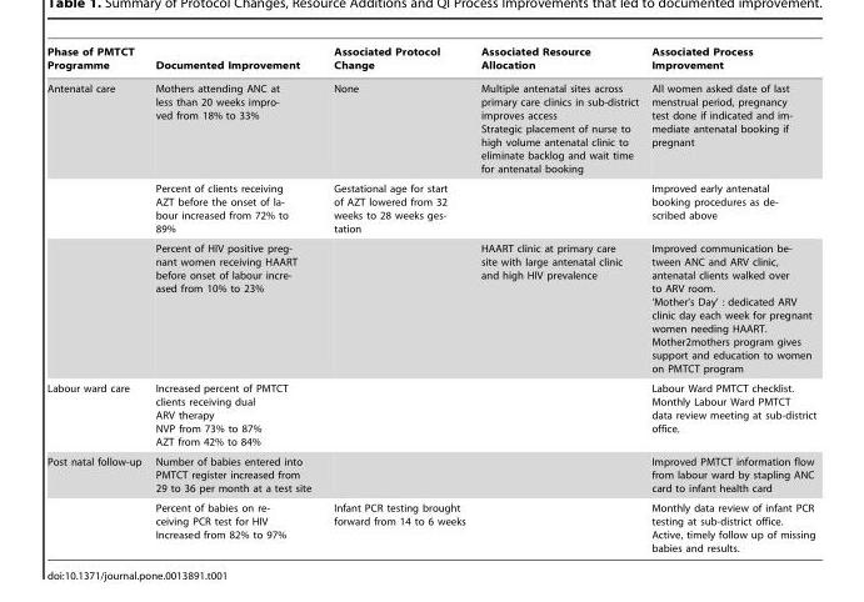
<table><thead><tr><td>Phase of PMTCT Programme</td><td>Documented Improvement</td><td>Associated Protocol Change</td><td>Associated Resource Allocation</td><td>Associated Process Improvement</td></tr></thead><tbody><tr><td rowspan="3">Antenatal care</td><td>Mothers attending ANC at less than 20 weeks impro- ved from 18% to 33%</td><td>None</td><td>Multiple antenatal sites across primary care clinics in sub-district improves access Strategic placement of nurse to high volume antenatal clinic to eliminate backlog and wait time for antenatal booking</td><td>All women asked date of last menstrual period, pregnancy test done if indicated and im- mediate antenatal booking if pregnant</td></tr><tr><td>Percent of clients receiving AZT before the onset of la- bour increased from 72% to 89%</td><td>Gestational age for start of AZT lowered from 32 weeks to 28 weeks ges- tation</td><td></td><td>Improved early antenatal booking procedures as de- scribed above</td></tr><tr><td>Percent of HIV positive preg- nant women receiving HAART before onset of labour incre- ased from 10% to 23%</td><td></td><td>HAART clinic at primary care site with large antenatal clinic and high HIV prevalence</td><td>Improved communication be- tween ANC and ARV clinic, antenatal clients walked over to ARV room. ‘Mother’s Day’ : dedicated ARV clinic day each week for pregnant women needing HAART. Mother2mothers program gives support and education to women on PMTCT program</td></tr><tr><td>Labour ward care</td><td>Increased percent of PMTCT clients receiving dual ARV therapy NVP from 73% to 87% AZT from 42% to 84%</td><td></td><td></td><td>Labour Ward PMTCT checklist. Monthly Labour Ward PMTCT data review meeting at sub-district office.</td></tr><tr><td rowspan="2">Post natal follow-up</td><td>Number of babies entered into PMTCT register increased from 29 to 36 per month at a test site</td><td></td><td></td><td>Improved PMTCT information flow from labour ward by stapling ANC card to infant health card</td></tr><tr><td>Percent of babies on re- ceiving PCR test for HIV Increased from 82% to 97%</td><td>Infant PCR testing brought forward from 14 to 6 weeks</td><td></td><td>Monthly data review of infant PCR testing at sub-district office. Active, timely follow up of missing babies and results.</td></tr></tbody></table>